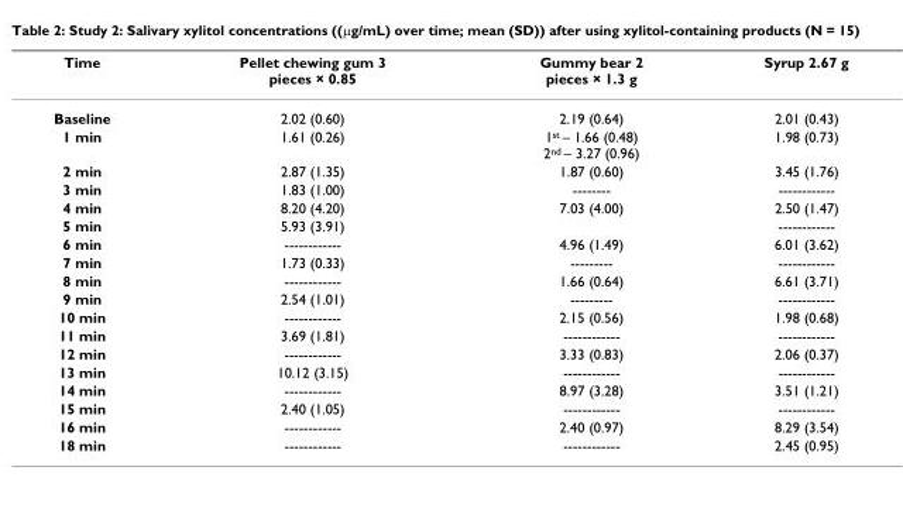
<table><thead><tr><td>Time</td><td>Pellet chewing gum 3 pieces × 0.85</td><td>Gummy bear 2 pieces × 1.3 g</td><td>Syrup 2.67 g</td></tr></thead><tbody><tr><td>Baseline</td><td>2.02 (0.60)</td><td>2.19 (0.64)</td><td>2.01 (0.43)</td></tr><tr><td>1 min</td><td>1.61 (0.26)</td><td>1<sup>st</sup> – 1.66 (0.48) 2<sup>nd</sup> – 3.27 (0.96)</td><td>1.98 (0.73)</td></tr><tr><td>2 min</td><td>2.87 (1.35)</td><td>1.87 (0.60)</td><td>3.45 (1.76)</td></tr><tr><td>3 min</td><td>1.83 (1.00)</td><td>--------</td><td>------------</td></tr><tr><td>4 min</td><td>8.20 (4.20)</td><td>7.03 (4.00)</td><td>2.50 (1.47)</td></tr><tr><td>5 min</td><td>5.93 (3.91)</td><td></td><td>------------</td></tr><tr><td>6 min</td><td>------------</td><td>4.96 (1.49)</td><td>6.01 (3.62)</td></tr><tr><td>7 min</td><td>1.73 (0.33)</td><td>---------</td><td>------------</td></tr><tr><td>8 min</td><td>------------</td><td>1.66 (0.64)</td><td>6.61 (3.71)</td></tr><tr><td>9 min</td><td>2.54 (1.01)</td><td>---------</td><td>------------</td></tr><tr><td>10 min</td><td>------------</td><td>2.15 (0.56)</td><td>1.98 (0.68)</td></tr><tr><td>11 min</td><td>3.69 (1.81)</td><td>------------</td><td>------------</td></tr><tr><td>12 min</td><td>------------</td><td>3.33 (0.83)</td><td>2.06 (0.37)</td></tr><tr><td>13 min</td><td>10.12 (3.15)</td><td>------------</td><td>------------</td></tr><tr><td>14 min</td><td>------------</td><td>8.97 (3.28)</td><td>3.51 (1.21)</td></tr><tr><td>15 min</td><td>2.40 (1.05)</td><td>------------</td><td>------------</td></tr><tr><td>16 min</td><td>------------</td><td>2.40 (0.97)</td><td>8.29 (3.54)</td></tr><tr><td>18 min</td><td>------------</td><td>------------</td><td>2.45 (0.95)</td></tr></tbody></table>